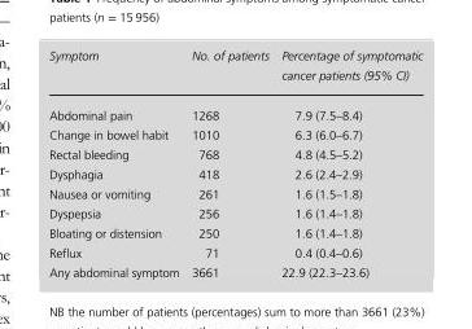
<table><thead><tr><td>Symptom</td><td>No. of patients</td><td>Percentage of symptomatic cancer patients (95% CI)</td></tr></thead><tbody><tr><td>Abdominal pain</td><td>1268</td><td>7.9 (7.5–8.4)</td></tr><tr><td>Change in bowel habit</td><td>1010</td><td>6.3 (6.0–6.7)</td></tr><tr><td>Rectal bleeding</td><td>768</td><td>4.8 (4.5–5.2)</td></tr><tr><td>Dysphagia</td><td>418</td><td>2.6 (2.4–2.9)</td></tr><tr><td>Nausea or vomiting</td><td>261</td><td>1.6 (1.5–1.8)</td></tr><tr><td>Dyspepsia</td><td>256</td><td>1.6 (1.4–1.8)</td></tr><tr><td>Bloating or distension</td><td>250</td><td>1.6 (1.4–1.8)</td></tr><tr><td>Reflux</td><td>71</td><td>0.4 (0.4–0.6)</td></tr><tr><td>Any abdominal symptom</td><td>3661</td><td>22.9 (22.3–23.6)</td></tr></tbody></table>